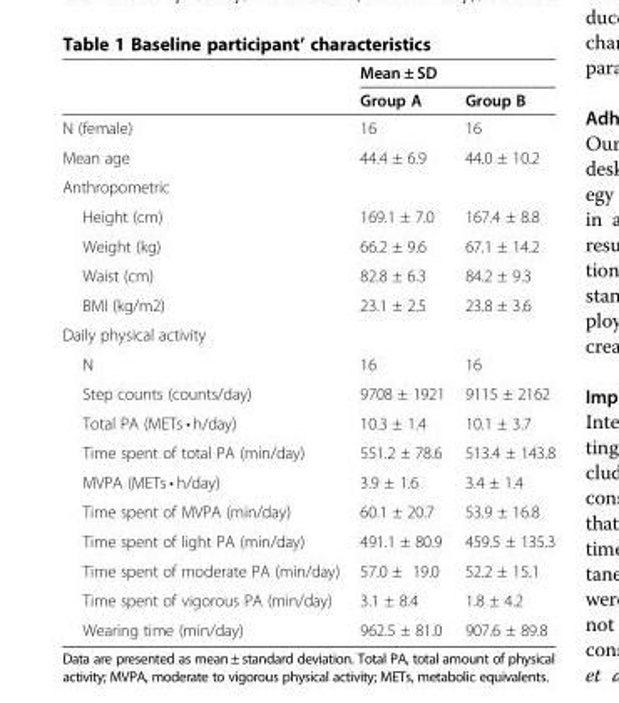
<table><thead><tr><td rowspan="2"></td><td colspan="2">Mean ± SD</td></tr><tr><td>Group A</td><td>Group B</td></tr></thead><tbody><tr><td>N (female)</td><td>16</td><td>16</td></tr><tr><td>Mean age</td><td>44.4 ± 6.9</td><td>44.0 ± 10.2</td></tr><tr><td colspan="3">Anthropometric</td></tr><tr><td>Height (cm)</td><td>169.1 ± 7.0</td><td>167.4 ± 8.8</td></tr><tr><td>Weight (kg)</td><td>66.2 ± 9.6</td><td>67.1 ± 14.2</td></tr><tr><td>Waist (cm)</td><td>82.8 ± 6.3</td><td>84.2 ± 9.3</td></tr><tr><td>BMI (kg/m2)</td><td>23.1 ± 2.5</td><td>23.8 ± 3.6</td></tr><tr><td colspan="3">Daily physical activity</td></tr><tr><td>N</td><td>16</td><td>16</td></tr><tr><td>Step counts (counts/day)</td><td>9708 ± 1921</td><td>9115 ± 2162</td></tr><tr><td>Total PA (METs • h/day)</td><td>10.3 ± 1.4</td><td>10.1 ± 3.7</td></tr><tr><td>Time spent of total PA (min/day)</td><td>551.2 ± 78.6</td><td>513.4 ± 143.8</td></tr><tr><td>MVPA (METs • h/day)</td><td>3.9 ± 1.6</td><td>3.4 ± 1.4</td></tr><tr><td>Time spent of MVPA (min/day)</td><td>60.1 ± 20.7</td><td>53.9 ± 16.8</td></tr><tr><td>Time spent of light PA (min/day)</td><td>491.1 ± 80.9</td><td>459.5 ± 135.3</td></tr><tr><td>Time spent of moderate PA (min/day)</td><td>57.0 ± 19.0</td><td>52.2 ± 15.1</td></tr><tr><td>Time spent of vigorous PA (min/day)</td><td>3.1 ± 8.4</td><td>1.8 ± 4.2</td></tr><tr><td>Wearing time (min/day)</td><td>962.5 ± 81.0</td><td>907.6 ± 89.8</td></tr></tbody></table>